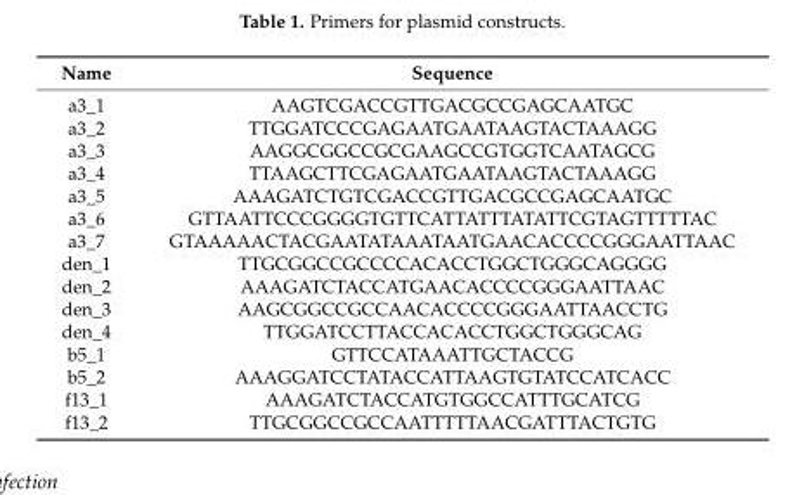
<table><thead><tr><td>Name</td><td>Sequence</td></tr></thead><tbody><tr><td>a3_1</td><td>AAGTCGACCGTTGACGCCGAGCAATGC</td></tr><tr><td>a3_2</td><td>TTGGATCCCGAGAATGAATAAGTACTAAAGG</td></tr><tr><td>a3_3</td><td>AAGGCGGCCGCGAAGCCGTGGTCAATAGCG</td></tr><tr><td>a3_4</td><td>TTAAGCTTCGAGAATGAATAAGTACTAAAGG</td></tr><tr><td>a3_5</td><td>AAAGATCTGTCGACCGTTGACGCCGAGCAATGC</td></tr><tr><td>a3_6</td><td>GTTAATTCCCGGGGTGTTCATTATTTATATTCGTAGTTTTTAC</td></tr><tr><td>a3_7</td><td>GTAAAAACTACGAATATAAATAATGAACACCCCGGGAATTAAC</td></tr><tr><td>den_1</td><td>TTGCGGCCGCCCCACACCTGGCTGGGCAGGGG</td></tr><tr><td>den_2</td><td>AAAGATCTACCATGAACACCCCGGGAATTAAC</td></tr><tr><td>den_3</td><td>AAGCGGCCGCCAACACCCCGGGAATTAACCTG</td></tr><tr><td>den_4</td><td>TTGGATCCTTACCACACCTGGCTGGGCAG</td></tr><tr><td>b5_1</td><td>GTTCCATAAATTGCTACCG</td></tr><tr><td>b5_2</td><td>AAAGGATCCTATACCATTAAGTGTATCCATCACC</td></tr><tr><td>f13_1</td><td>AAAGATCTACCATGTGGCCATTTGCATCG</td></tr><tr><td>f13_2</td><td>TTGCGGCCGCCAATTTTTAACGATTTACTGTG</td></tr></tbody></table>